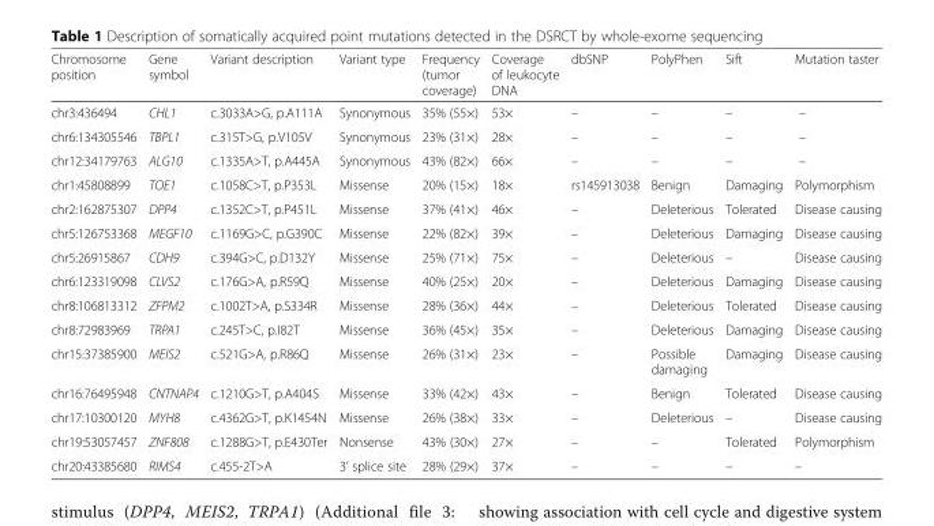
<table><thead><tr><td>Chromosome position</td><td>Gene symbol</td><td>Variant description</td><td>Variant type</td><td>Frequency (tumor coverage)</td><td>Coverage of leukocyte DNA</td><td>dbSNP</td><td>PolyPhen</td><td>Sift</td><td>Mutation taster</td></tr></thead><tbody><tr><td>chr3:436494</td><td>CHL1</td><td>c.3033A&gt;G, p.A111A</td><td>Synonymous</td><td>35% (55×)</td><td>53×</td><td>–</td><td>–</td><td>–</td><td>–</td></tr><tr><td>chr6:134305546</td><td>TBPL1</td><td>c.315T&gt;G, p.V105V</td><td>Synonymous</td><td>23% (31×)</td><td>28×</td><td>–</td><td>–</td><td>–</td><td>–</td></tr><tr><td>chr12:34179763</td><td>ALG10</td><td>c.1335A&gt;T, p.A445A</td><td>Synonymous</td><td>43% (82×)</td><td>66×</td><td>–</td><td>–</td><td>–</td><td>–</td></tr><tr><td>chr1:45808899</td><td>TOE1</td><td>c.1058C&gt;T, p.P353L</td><td>Missense</td><td>20% (15×)</td><td>18×</td><td>rs145913038</td><td>Benign</td><td>Damaging</td><td>Polymorphism</td></tr><tr><td>chr2:162875307</td><td>DPP4</td><td>c.1352C&gt;T, p.P451L</td><td>Missense</td><td>37% (41×)</td><td>46×</td><td>–</td><td>Deleterious</td><td>Tolerated</td><td>Disease causing</td></tr><tr><td>chr5:126753368</td><td>MEGF10</td><td>c.1169G&gt;C, p.G390C</td><td>Missense</td><td>22% (82×)</td><td>39×</td><td>–</td><td>Deleterious</td><td>Damaging</td><td>Disease causing</td></tr><tr><td>chr5:26915867</td><td>CDH9</td><td>c.394G&gt;C, p.D132Y</td><td>Missense</td><td>25% (71×)</td><td>75×</td><td>–</td><td>Deleterious</td><td>–</td><td>Disease causing</td></tr><tr><td>chr6:123319098</td><td>CLVS2</td><td>c.176G&gt;A, p.R59Q</td><td>Missense</td><td>40% (25×)</td><td>20×</td><td>–</td><td>Deleterious</td><td>Damaging</td><td>Disease causing</td></tr><tr><td>chr8:106813312</td><td>ZFPM2</td><td>c.1002T&gt;A, p.S334R</td><td>Missense</td><td>28% (36×)</td><td>44×</td><td>–</td><td>Deleterious</td><td>Tolerated</td><td>Disease causing</td></tr><tr><td>chr8:72983969</td><td>TRPA1</td><td>c.245T&gt;C, p.I82T</td><td>Missense</td><td>36% (45×)</td><td>35×</td><td>–</td><td>Deleterious</td><td>Damaging</td><td>Disease causing</td></tr><tr><td>chr15:37385900</td><td>MEIS2</td><td>c.521G&gt;A, p.R86Q</td><td>Missense</td><td>26% (31×)</td><td>23×</td><td>–</td><td>Possible damaging</td><td>Damaging</td><td>Disease causing</td></tr><tr><td>chr16:76495948</td><td>CNTNAP4</td><td>c.1210G&gt;T, p.A404S</td><td>Missense</td><td>33% (42×)</td><td>43×</td><td>–</td><td>Benign</td><td>Tolerated</td><td>Disease causing</td></tr><tr><td>chr17:10300120</td><td>MYH8</td><td>c.4362G&gt;T, p.K1454N</td><td>Missense</td><td>26% (38×)</td><td>33×</td><td>–</td><td>Deleterious</td><td>–</td><td>Disease causing</td></tr><tr><td>chr19:53057457</td><td>ZNF808</td><td>c.1288G&gt;T, p.E430Ter</td><td>Nonsense</td><td>43% (30×)</td><td>27×</td><td>–</td><td>–</td><td>Tolerated</td><td>Polymorphism</td></tr><tr><td>chr20:43385680</td><td>RIMS4</td><td>c.455-2T&gt;A</td><td>3’ splice site</td><td>28% (29×)</td><td>37×</td><td>–</td><td>–</td><td>–</td><td>–</td></tr></tbody></table>